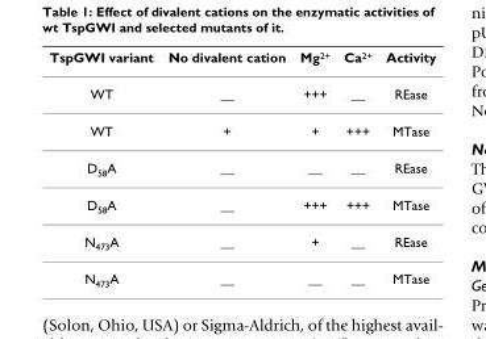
<table><thead><tr><td>TspGWI variant</td><td>No divalent cation</td><td>Mg<sup>2+</sup></td><td>Ca<sup>2+</sup></td><td>Activity</td></tr></thead><tbody><tr><td>WT</td><td>__</td><td>+++</td><td>__</td><td>REase</td></tr><tr><td>WT</td><td>+</td><td>+</td><td>+++</td><td>MTase</td></tr><tr><td>D<sub>58</sub>A</td><td>__</td><td>__</td><td>__</td><td>REase</td></tr><tr><td>D<sub>58</sub>A</td><td>__</td><td>+++</td><td>+++</td><td>MTase</td></tr><tr><td>N<sub>473</sub>A</td><td>__</td><td>+</td><td>__</td><td>REase</td></tr><tr><td>N<sub>473</sub>A</td><td>__</td><td>__</td><td>__</td><td>MTase</td></tr></tbody></table>